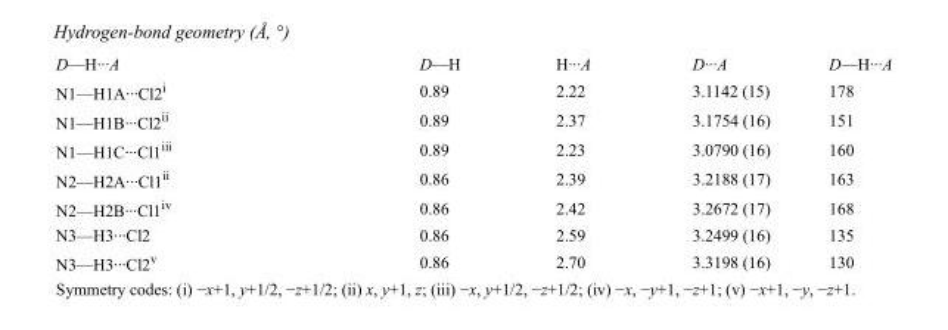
<table><tbody><tr><td>D—H···A</td><td>D—H</td><td>H···A</td><td>D···A</td><td>D—H···A</td></tr><tr><td>N1—H1A···Cl2<sup>i</sup></td><td>0.89</td><td>2.22</td><td>3.1142 (15)</td><td>178</td></tr><tr><td>N1—H1B···Cl2<sup>ii</sup></td><td>0.89</td><td>2.37</td><td>3.1754 (16)</td><td>151</td></tr><tr><td>N1—H1C···Cl1<sup>iii</sup></td><td>0.89</td><td>2.23</td><td>3.0790 (16)</td><td>160</td></tr><tr><td>N2—H2A···Cl1<sup>ii</sup></td><td>0.86</td><td>2.39</td><td>3.2188 (17)</td><td>163</td></tr><tr><td>N2—H2B···Cl1<sup>iv</sup></td><td>0.86</td><td>2.42</td><td>3.2672 (17)</td><td>168</td></tr><tr><td>N3—H3···Cl2</td><td>0.86</td><td>2.59</td><td>3.2499 (16)</td><td>135</td></tr><tr><td>N3—H3···Cl2<sup>v</sup></td><td>0.86</td><td>2.70</td><td>3.3198 (16)</td><td>130</td></tr></tbody></table>